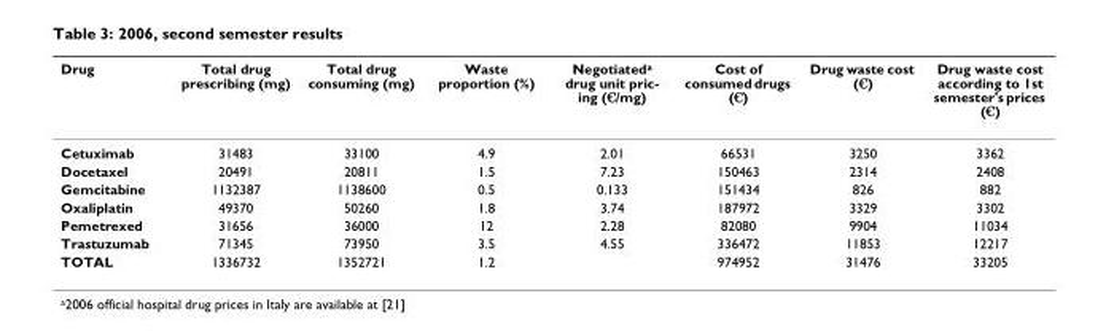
<table><thead><tr><td>Drug</td><td>Total drug prescribing (mg)</td><td>Total drug consuming (mg)</td><td>Waste proportion (%)</td><td>Negotiateda drug unit pric- ing (€/mg)</td><td>Cost of consumed drugs (€)</td><td>Drug waste cost (€)</td><td>Drug waste cost according to 1st semester&#x27;s prices (€)</td></tr></thead><tbody><tr><td>Cetuximab</td><td>31483</td><td>33100</td><td>4.9</td><td>2.01</td><td>66531</td><td>3250</td><td>3362</td></tr><tr><td>Docetaxel</td><td>20491</td><td>20811</td><td>1.5</td><td>7.23</td><td>150463</td><td>2314</td><td>2408</td></tr><tr><td>Gemcitabine</td><td>1132387</td><td>1138600</td><td>0.5</td><td>0.133</td><td>151434</td><td>826</td><td>882</td></tr><tr><td>Oxaliplatin</td><td>49370</td><td>50260</td><td>1.8</td><td>3.74</td><td>187972</td><td>3329</td><td>3302</td></tr><tr><td>Pemetrexed</td><td>31656</td><td>36000</td><td>12</td><td>2.28</td><td>82080</td><td>9904</td><td>11034</td></tr><tr><td>Trastuzumab</td><td>71345</td><td>73950</td><td>3.5</td><td>4.55</td><td>336472</td><td>11853</td><td>12217</td></tr><tr><td>TOTAL</td><td>1336732</td><td>1352721</td><td>1.2</td><td></td><td>974952</td><td>31476</td><td>33205</td></tr></tbody></table>